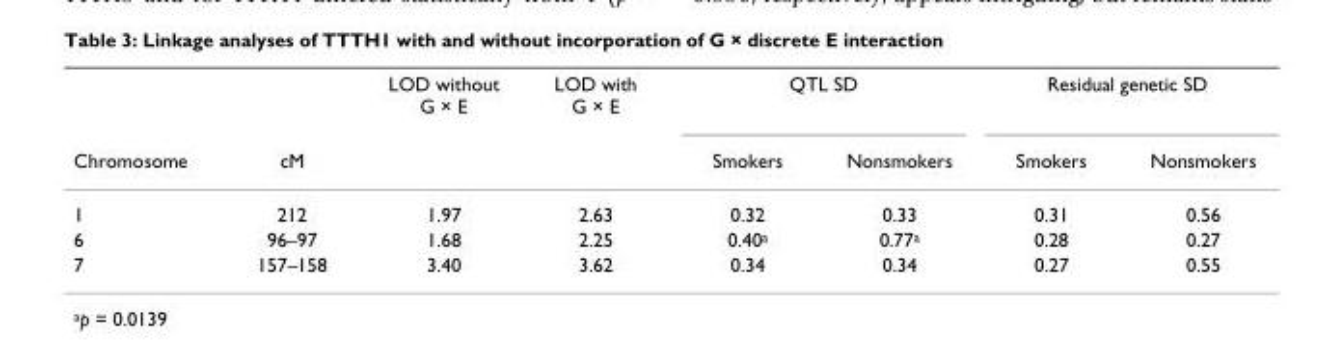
<table><thead><tr><td rowspan="2">Chromosome</td><td rowspan="2">cM</td><td rowspan="2">LOD without G × E</td><td rowspan="2">LOD with G × E</td><td colspan="2">QTL SD</td><td colspan="2">Residual genetic SD</td></tr><tr><td>Smokers</td><td>Nonsmokers</td><td>Smokers</td><td>Nonsmokers</td></tr></thead><tbody><tr><td>1</td><td>212</td><td>1.97</td><td>2.63</td><td>0.32</td><td>0.33</td><td>0.31</td><td>0.56</td></tr><tr><td>6</td><td>96–97</td><td>1.68</td><td>2.25</td><td>0.40a</td><td>0.77a</td><td>0.28</td><td>0.27</td></tr><tr><td>7</td><td>157–158</td><td>3.40</td><td>3.62</td><td>0.34</td><td>0.34</td><td>0.27</td><td>0.55</td></tr></tbody></table>